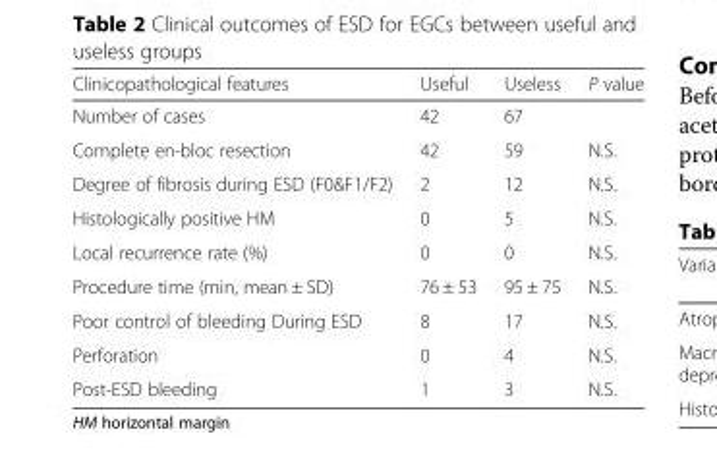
<table><thead><tr><td>Clinicopathological features</td><td>Useful</td><td>Useless</td><td>P value</td></tr></thead><tbody><tr><td>Number of cases</td><td>42</td><td>67</td><td></td></tr><tr><td>Complete en-bloc resection</td><td>42</td><td>59</td><td>N.S.</td></tr><tr><td>Degree of fibrosis during ESD (F0&amp;F1/F2)</td><td>2</td><td>12</td><td>N.S.</td></tr><tr><td>Histologically positive HM</td><td>0</td><td>5</td><td>N.S.</td></tr><tr><td>Local recurrence rate (%)</td><td>0</td><td>0</td><td>N.S.</td></tr><tr><td>Procedure time (min, mean ± SD)</td><td>76 ± 53</td><td>95 ± 75</td><td>N.S.</td></tr><tr><td>Poor control of bleeding During ESD</td><td>8</td><td>17</td><td>N.S.</td></tr><tr><td>Perforation</td><td>0</td><td>4</td><td>N.S.</td></tr><tr><td>Post-ESD bleeding</td><td>1</td><td>3</td><td>N.S.</td></tr></tbody></table>